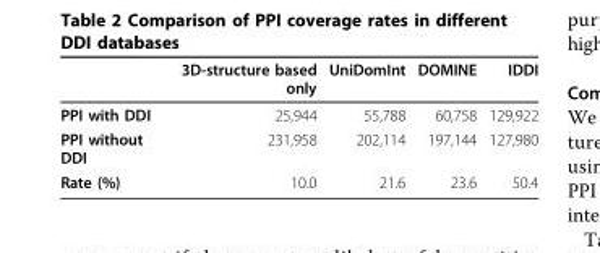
<table><thead><tr><td></td><td>3D-structure based only</td><td>UniDomInt</td><td>DOMINE</td><td>IDDI</td></tr></thead><tbody><tr><td>PPI with DDI</td><td>25,944</td><td>55,788</td><td>60,758</td><td>129,922</td></tr><tr><td>PPI without DDI</td><td>231,958</td><td>202,114</td><td>197,144</td><td>127,980</td></tr><tr><td>Rate (%)</td><td>10.0</td><td>21.6</td><td>23.6</td><td>50.4</td></tr></tbody></table>